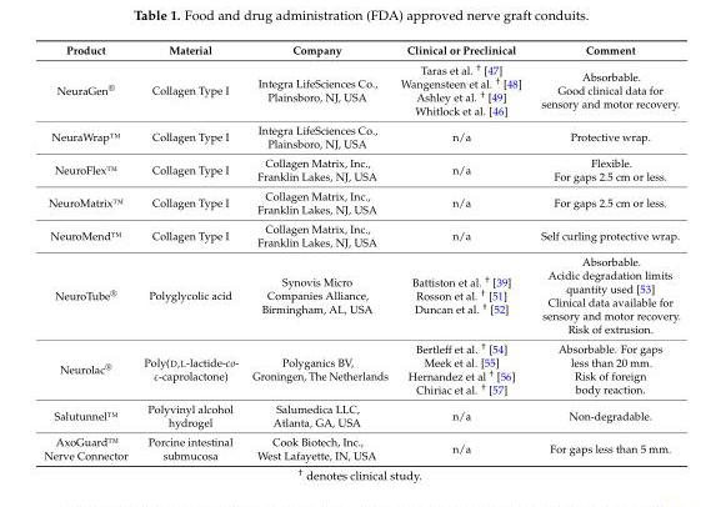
<table><thead><tr><td>Product</td><td>Material</td><td>Company</td><td>Clinical or Preclinical</td><td>Comment</td></tr></thead><tbody><tr><td>NeuraGen<sup>®</sup></td><td>Collagen Type I</td><td>Integra LifeSciences Co., Plainsboro, NJ, USA</td><td>Taras et al. <sup>†</sup> [47] Wangensteen et al. <sup>†</sup> [48] Ashley et al. <sup>†</sup> [49] Whitlock et al. [46]</td><td>Absorbable. Good clinical data for sensory and motor recovery.</td></tr><tr><td>NeuraWrap™</td><td>Collagen Type I</td><td>Integra LifeSciences Co., Plainsboro, NJ, USA</td><td>n/a</td><td>Protective wrap.</td></tr><tr><td>NeuroFlex™</td><td>Collagen Type I</td><td>Collagen Matrix, Inc., Franklin Lakes, NJ, USA</td><td>n/a</td><td>Flexible. For gaps 2.5 cm or less.</td></tr><tr><td>NeuroMatrix™</td><td>Collagen Type I</td><td>Collagen Matrix, Inc., Franklin Lakes, NJ, USA</td><td>n/a</td><td>For gaps 2.5 cm or less.</td></tr><tr><td>NeuroMend™</td><td>Collagen Type I</td><td>Collagen Matrix, Inc., Franklin Lakes, NJ, USA</td><td>n/a</td><td>Self curling protective wrap.</td></tr><tr><td>NeuroTube<sup>®</sup></td><td>Polyglycolic acid</td><td>Synovis Micro Companies Alliance, Birmingham, AL, USA</td><td>Battiston et al. <sup>†</sup> [39] Rosson et al. <sup>†</sup> [51] Duncan et al. <sup>†</sup> [52]</td><td>Absorbable. Acidic degradation limits quantity used [53] Clinical data available for sensory and motor recovery. Risk of extrusion.</td></tr><tr><td>Neurolac<sup>®</sup></td><td>Poly(D,L-lactide-co- ε-caprolactone)</td><td>Polyganics BV, Groningen, The Netherlands</td><td>Bertleff et al. <sup>†</sup> [54] Meek et al. [55] Hernandez et al <sup>†</sup> [56] Chiriac et al. <sup>†</sup> [57]</td><td>Absorbable. For gaps less than 20 mm. Risk of foreign body reaction.</td></tr><tr><td>Salutunnel™</td><td>Polyvinyl alcohol hydrogel</td><td>Salumedica LLC, Atlanta, GA, USA</td><td>n/a</td><td>Non-degradable.</td></tr><tr><td>AxoGuard™ Nerve Connector</td><td>Porcine intestinal submucosa</td><td>Cook Biotech, Inc., West Lafayette, IN, USA</td><td>n/a</td><td>For gaps less than 5 mm.</td></tr></tbody></table>